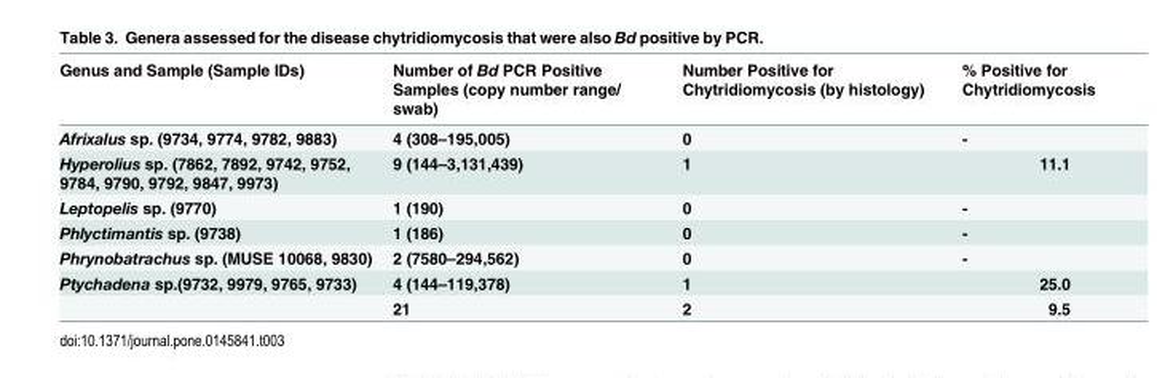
<table><thead><tr><td>Genus and Sample (Sample IDs)</td><td>Number of Bd PCR Positive Samples (copy number range/ swab)</td><td>Number Positive for Chytridiomycosis (by histology)</td><td>% Positive for Chytridiomycosis</td></tr></thead><tbody><tr><td>Afrixalus sp. (9734, 9774, 9782, 9883)</td><td>4 (308–195,005)</td><td>0</td><td>-</td></tr><tr><td>Hyperolius sp. (7862, 7892, 9742, 9752, 9784, 9790, 9792, 9847, 9973)</td><td>9 (144–3,131,439)</td><td>1</td><td>11.1</td></tr><tr><td>Leptopelis sp. (9770)</td><td>1 (190)</td><td>0</td><td>-</td></tr><tr><td>Phlyctimantis sp. (9738)</td><td>1 (186)</td><td>0</td><td>-</td></tr><tr><td>Phrynobatrachus sp. (MUSE 10068, 9830)</td><td>2 (7580–294,562)</td><td>0</td><td>-</td></tr><tr><td rowspan="2">Ptychadena sp.(9732, 9979, 9765, 9733)</td><td>4 (144–119,378)</td><td>1</td><td>25.0</td></tr><tr><td>21</td><td>2</td><td>9.5</td></tr></tbody></table>